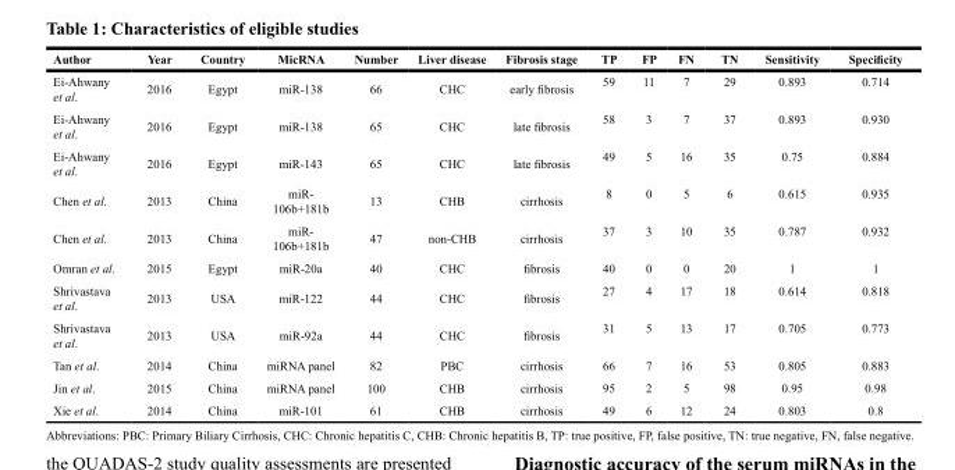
<table><thead><tr><td>Author</td><td>Year</td><td>Country</td><td>MicRNA</td><td>Number</td><td>Liver disease</td><td>Fibrosis stage</td><td>TP</td><td>FP</td><td>FN</td><td>TN</td><td>Sensitivity</td><td>Specificity</td></tr></thead><tbody><tr><td>Ei-Ahwany et al.</td><td>2016</td><td>Egypt</td><td>miR-138</td><td>66</td><td>CHC</td><td>early fibrosis</td><td>59</td><td>11</td><td>7</td><td>29</td><td>0.893</td><td>0.714</td></tr><tr><td>Ei-Ahwany et al.</td><td>2016</td><td>Egypt</td><td>miR-138</td><td>65</td><td>CHC</td><td>late fibrosis</td><td>58</td><td>3</td><td>7</td><td>37</td><td>0.893</td><td>0.930</td></tr><tr><td>Ei-Ahwany et al.</td><td>2016</td><td>Egypt</td><td>miR-143</td><td>65</td><td>CHC</td><td>late fibrosis</td><td>49</td><td>5</td><td>16</td><td>35</td><td>0.75</td><td>0.884</td></tr><tr><td>Chen et al.</td><td>2013</td><td>China</td><td>miR- 106b+181b</td><td>13</td><td>CHB</td><td>cirrhosis</td><td>8</td><td>0</td><td>5</td><td>6</td><td>0.615</td><td>0.935</td></tr><tr><td>Chen et al.</td><td>2013</td><td>China</td><td>miR- 106b+181b</td><td>47</td><td>non-CHB</td><td>cirrhosis</td><td>37</td><td>3</td><td>10</td><td>35</td><td>0.787</td><td>0.932</td></tr><tr><td>Omran et al.</td><td>2015</td><td>Egypt</td><td>miR-20a</td><td>40</td><td>CHC</td><td>fibrosis</td><td>40</td><td>0</td><td>0</td><td>20</td><td>1</td><td>1</td></tr><tr><td>Shrivastava et al.</td><td>2013</td><td>USA</td><td>miR-122</td><td>44</td><td>CHC</td><td>fibrosis</td><td>27</td><td>4</td><td>17</td><td>18</td><td>0.614</td><td>0.818</td></tr><tr><td>Shrivastava et al.</td><td>2013</td><td>USA</td><td>miR-92a</td><td>44</td><td>CHC</td><td>fibrosis</td><td>31</td><td>5</td><td>13</td><td>17</td><td>0.705</td><td>0.773</td></tr><tr><td>Tan et al.</td><td>2014</td><td>China</td><td>miRNA panel</td><td>82</td><td>PBC</td><td>cirrhosis</td><td>66</td><td>7</td><td>16</td><td>53</td><td>0.805</td><td>0.883</td></tr><tr><td>Jin et al.</td><td>2015</td><td>China</td><td>miRNA panel</td><td>100</td><td>CHB</td><td>cirrhosis</td><td>95</td><td>2</td><td>5</td><td>98</td><td>0.95</td><td>0.98</td></tr><tr><td>Xie et al.</td><td>2014</td><td>China</td><td>miR-101</td><td>61</td><td>CHB</td><td>cirrhosis</td><td>49</td><td>6</td><td>12</td><td>24</td><td>0.803</td><td>0.8</td></tr></tbody></table>